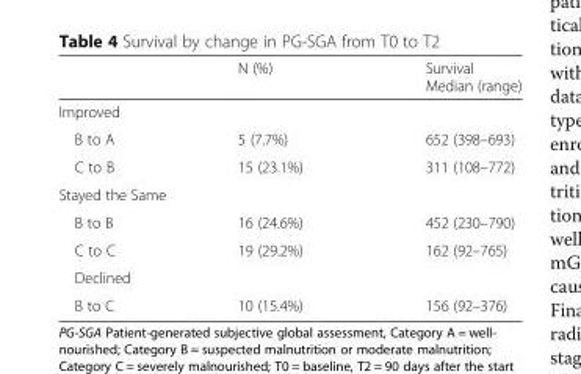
<table><thead><tr><td></td><td>N (%)</td><td>Survival Median (range)</td></tr></thead><tbody><tr><td colspan="3">Improved</td></tr><tr><td>B to A</td><td>5 (7.7%)</td><td>652 (398–693)</td></tr><tr><td>C to B</td><td>15 (23.1%)</td><td>311 (108–772)</td></tr><tr><td colspan="3">Stayed the Same</td></tr><tr><td>B to B</td><td>16 (24.6%)</td><td>452 (230–790)</td></tr><tr><td>C to C</td><td>19 (29.2%)</td><td>162 (92–765)</td></tr><tr><td colspan="3">Declined</td></tr><tr><td>B to C</td><td>10 (15.4%)</td><td>156 (92–376)</td></tr></tbody></table>